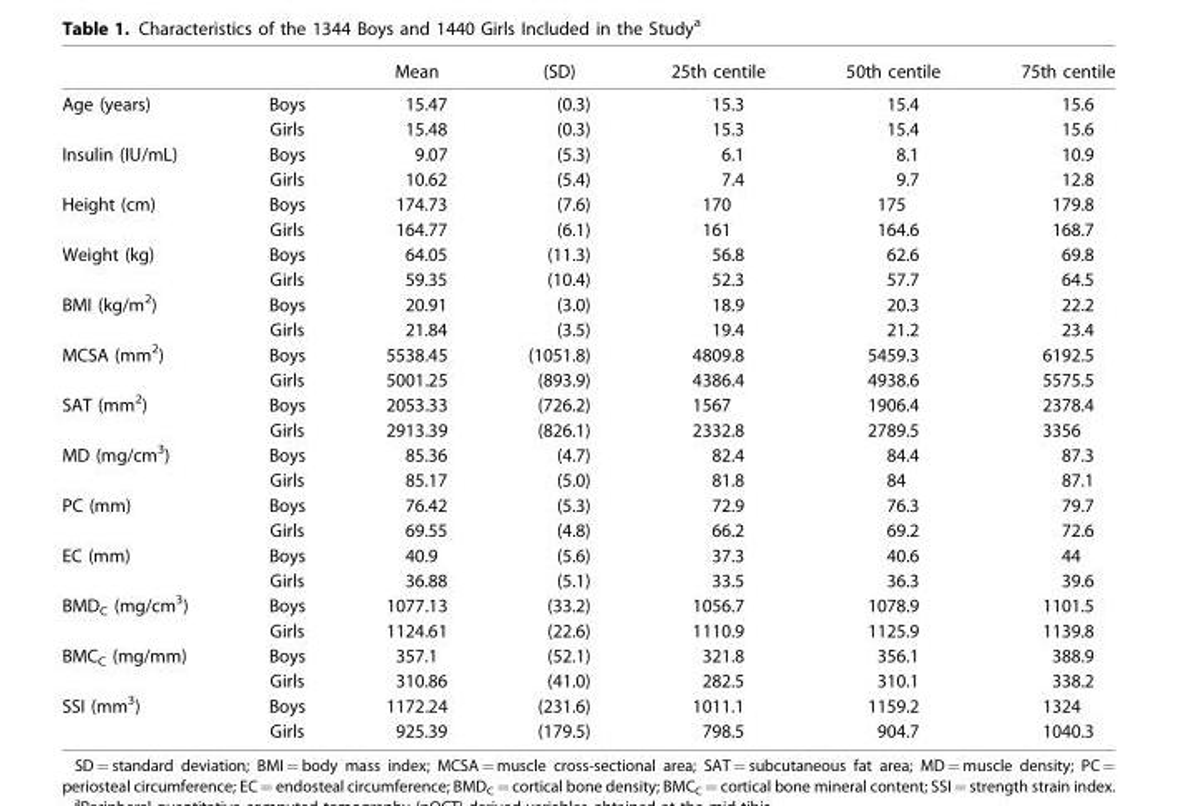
<table><thead><tr><td></td><td></td><td>Mean</td><td>(SD)</td><td>25th centile</td><td>50th centile</td><td>75th centile</td></tr></thead><tbody><tr><td rowspan="2">Age (years)</td><td>Boys</td><td>15.47</td><td>(0.3)</td><td>15.3</td><td>15.4</td><td>15.6</td></tr><tr><td>Girls</td><td>15.48</td><td>(0.3)</td><td>15.3</td><td>15.4</td><td>15.6</td></tr><tr><td rowspan="2">Insulin (IU/mL)</td><td>Boys</td><td>9.07</td><td>(5.3)</td><td>6.1</td><td>8.1</td><td>10.9</td></tr><tr><td>Girls</td><td>10.62</td><td>(5.4)</td><td>7.4</td><td>9.7</td><td>12.8</td></tr><tr><td rowspan="2">Height (cm)</td><td>Boys</td><td>174.73</td><td>(7.6)</td><td>170</td><td>175</td><td>179.8</td></tr><tr><td>Girls</td><td>164.77</td><td>(6.1)</td><td>161</td><td>164.6</td><td>168.7</td></tr><tr><td rowspan="2">Weight (kg)</td><td>Boys</td><td>64.05</td><td>(11.3)</td><td>56.8</td><td>62.6</td><td>69.8</td></tr><tr><td>Girls</td><td>59.35</td><td>(10.4)</td><td>52.3</td><td>57.7</td><td>64.5</td></tr><tr><td rowspan="2">BMI (kg/m<sup>2</sup>)</td><td>Boys</td><td>20.91</td><td>(3.0)</td><td>18.9</td><td>20.3</td><td>22.2</td></tr><tr><td>Girls</td><td>21.84</td><td>(3.5)</td><td>19.4</td><td>21.2</td><td>23.4</td></tr><tr><td rowspan="2">MCSA (mm<sup>2</sup>)</td><td>Boys</td><td>5538.45</td><td>(1051.8)</td><td>4809.8</td><td>5459.3</td><td>6192.5</td></tr><tr><td>Girls</td><td>5001.25</td><td>(893.9)</td><td>4386.4</td><td>4938.6</td><td>5575.5</td></tr><tr><td rowspan="2">SAT (mm<sup>2</sup>)</td><td>Boys</td><td>2053.33</td><td>(726.2)</td><td>1567</td><td>1906.4</td><td>2378.4</td></tr><tr><td>Girls</td><td>2913.39</td><td>(826.1)</td><td>2332.8</td><td>2789.5</td><td>3356</td></tr><tr><td rowspan="2">MD (mg/cm<sup>3</sup>)</td><td>Boys</td><td>85.36</td><td>(4.7)</td><td>82.4</td><td>84.4</td><td>87.3</td></tr><tr><td>Girls</td><td>85.17</td><td>(5.0)</td><td>81.8</td><td>84</td><td>87.1</td></tr><tr><td rowspan="2">PC (mm)</td><td>Boys</td><td>76.42</td><td>(5.3)</td><td>72.9</td><td>76.3</td><td>79.7</td></tr><tr><td>Girls</td><td>69.55</td><td>(4.8)</td><td>66.2</td><td>69.2</td><td>72.6</td></tr><tr><td rowspan="2">EC (mm)</td><td>Boys</td><td>40.9</td><td>(5.6)</td><td>37.3</td><td>40.6</td><td>44</td></tr><tr><td>Girls</td><td>36.88</td><td>(5.1)</td><td>33.5</td><td>36.3</td><td>39.6</td></tr><tr><td rowspan="2">BMD<sub>C</sub> (mg/cm<sup>3</sup>)</td><td>Boys</td><td>1077.13</td><td>(33.2)</td><td>1056.7</td><td>1078.9</td><td>1101.5</td></tr><tr><td>Girls</td><td>1124.61</td><td>(22.6)</td><td>1110.9</td><td>1125.9</td><td>1139.8</td></tr><tr><td rowspan="2">BMC<sub>C</sub> (mg/mm)</td><td>Boys</td><td>357.1</td><td>(52.1)</td><td>321.8</td><td>356.1</td><td>388.9</td></tr><tr><td>Girls</td><td>310.86</td><td>(41.0)</td><td>282.5</td><td>310.1</td><td>338.2</td></tr><tr><td rowspan="2">SSI (mm<sup>3</sup>)</td><td>Boys</td><td>1172.24</td><td>(231.6)</td><td>1011.1</td><td>1159.2</td><td>1324</td></tr><tr><td>Girls</td><td>925.39</td><td>(179.5)</td><td>798.5</td><td>904.7</td><td>1040.3</td></tr></tbody></table>